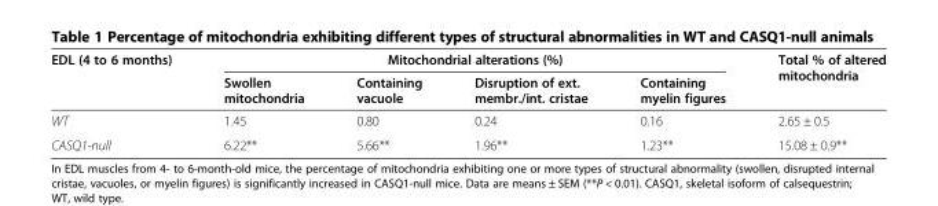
<table><thead><tr><td rowspan="2">EDL (4 to 6 months)</td><td colspan="4">Mitochondrial alterations (%)</td><td rowspan="2">Total % of altered mitochondria</td></tr><tr><td>Swollen mitochondria</td><td>Containing vacuole</td><td>Disruption of ext. membr./int. cristae</td><td>Containing myelin figures</td></tr></thead><tbody><tr><td>WT</td><td>1.45</td><td>0.80</td><td>0.24</td><td>0.16</td><td>2.65 ± 0.5</td></tr><tr><td>CASQ1-null</td><td>6.22**</td><td>5.66**</td><td>1.96**</td><td>1.23**</td><td>15.08 ± 0.9**</td></tr></tbody></table>